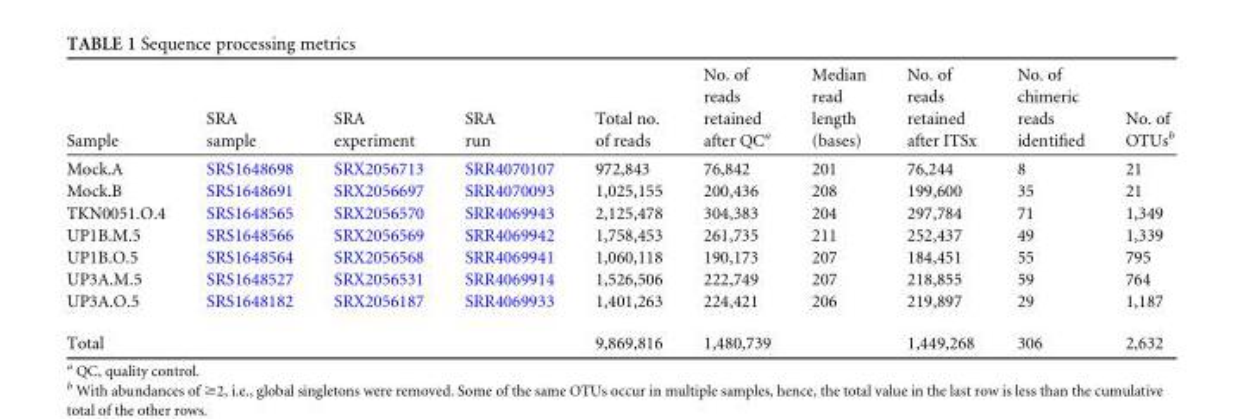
<table><thead><tr><td>Sample</td><td>SRA sample</td><td>SRA experiment</td><td>SRA run</td><td>Total no. of reads</td><td>No. of reads retained after QC<sup>a</sup></td><td>Median read length (bases)</td><td>No. of reads retained after ITSx</td><td>No. of chimeric reads identified</td><td>No. of OTUs<sup>b</sup></td></tr></thead><tbody><tr><td>Mock.A</td><td>SRS1648698</td><td>SRX2056713</td><td>SRR4070107</td><td>972,843</td><td>76,842</td><td>201</td><td>76,244</td><td>8</td><td>21</td></tr><tr><td>Mock.B</td><td>SRS1648691</td><td>SRX2056697</td><td>SRR4070093</td><td>1,025,155</td><td>200,436</td><td>208</td><td>199,600</td><td>35</td><td>21</td></tr><tr><td>TKN0051.O.4</td><td>SRS1648565</td><td>SRX2056570</td><td>SRR4069943</td><td>2,125,478</td><td>304,383</td><td>204</td><td>297,784</td><td>71</td><td>1,349</td></tr><tr><td>UP1B.M.5</td><td>SRS1648566</td><td>SRX2056569</td><td>SRR4069942</td><td>1,758,453</td><td>261,735</td><td>211</td><td>252,437</td><td>49</td><td>1,339</td></tr><tr><td>UP1B.O.5</td><td>SRS1648564</td><td>SRX2056568</td><td>SRR4069941</td><td>1,060,118</td><td>190,173</td><td>207</td><td>184,451</td><td>55</td><td>795</td></tr><tr><td>UP3A.M.5</td><td>SRS1648527</td><td>SRX2056531</td><td>SRR4069914</td><td>1,526,506</td><td>222,749</td><td>207</td><td>218,855</td><td>59</td><td>764</td></tr><tr><td>UP3A.O.5</td><td>SRS1648182</td><td>SRX2056187</td><td>SRR4069933</td><td>1,401,263</td><td>224,421</td><td>206</td><td>219,897</td><td>29</td><td>1,187</td></tr><tr><td>Total</td><td></td><td></td><td></td><td>9,869,816</td><td>1,480,739</td><td></td><td>1,449,268</td><td>306</td><td>2,632</td></tr></tbody></table>